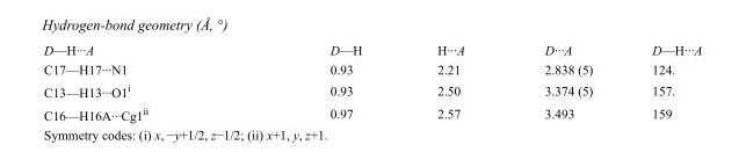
<table><tbody><tr><td>D—H···A</td><td>D—H</td><td>H···A</td><td>D···A</td><td>D—H···A</td></tr><tr><td>C17—H17···N1</td><td>0.93</td><td>2.21</td><td>2.838 (5)</td><td>124.</td></tr><tr><td>C13—H13···O1<sup>i</sup></td><td>0.93</td><td>2.50</td><td>3.374 (5)</td><td>157.</td></tr><tr><td>C16—H16A···Cg1<sup>ii</sup></td><td>0.97</td><td>2.57</td><td>3.493</td><td>159</td></tr></tbody></table>